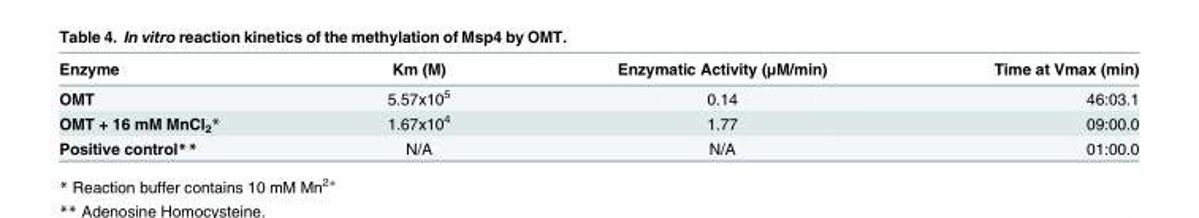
<table><thead><tr><td>Enzyme</td><td>Km (M)</td><td>Enzymatic Activity (μM/min)</td><td>Time at Vmax (min)</td></tr></thead><tbody><tr><td>OMT</td><td>5.57x10<sup>5</sup></td><td>0.14</td><td>46:03.1</td></tr><tr><td>OMT + 16 mM MnCl<sub>2</sub>*</td><td>1.67x10<sup>4</sup></td><td>1.77</td><td>09:00.0</td></tr><tr><td>Positive control**</td><td>N/A</td><td>N/A</td><td>01:00.0</td></tr></tbody></table>